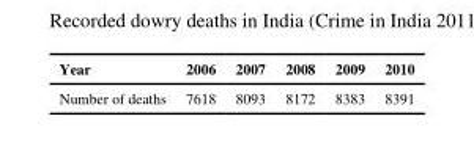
<table><thead><tr><td>Year</td><td>2006</td><td>2007</td><td>2008</td><td>2009</td><td>2010</td></tr></thead><tbody><tr><td>Number of deaths</td><td>7618</td><td>8093</td><td>8172</td><td>8383</td><td>8391</td></tr></tbody></table>